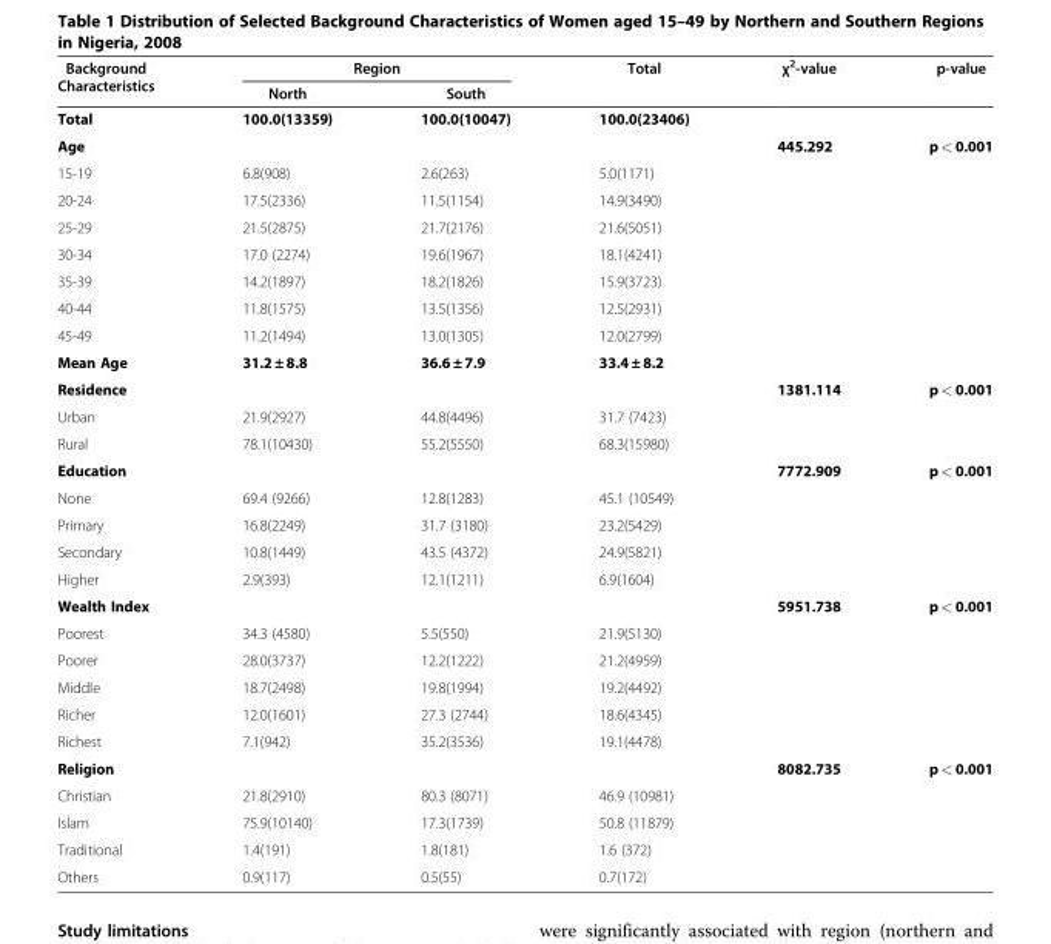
<table><thead><tr><td rowspan="2">Background Characteristics</td><td colspan="2">Region</td><td rowspan="2">Total</td><td rowspan="2">χ<sup>2</sup>-value</td><td rowspan="2">p-value</td></tr><tr><td>North</td><td>South</td></tr></thead><tbody><tr><td>Total</td><td>100.0(13359)</td><td>100.0(10047)</td><td>100.0(23406)</td><td></td><td></td></tr><tr><td>Age</td><td></td><td></td><td></td><td>445.292</td><td>p &lt; 0.001</td></tr><tr><td>15-19</td><td>6.8(908)</td><td>2.6(263)</td><td>5.0(1171)</td><td></td><td></td></tr><tr><td>20-24</td><td>17.5(2336)</td><td>11.5(1154)</td><td>14.9(3490)</td><td></td><td></td></tr><tr><td>25-29</td><td>21.5(2875)</td><td>21.7(2176)</td><td>21.6(5051)</td><td></td><td></td></tr><tr><td>30-34</td><td>17.0 (2274)</td><td>19.6(1967)</td><td>18.1(4241)</td><td></td><td></td></tr><tr><td>35-39</td><td>14.2(1897)</td><td>18.2(1826)</td><td>15.9(3723)</td><td></td><td></td></tr><tr><td>40-44</td><td>11.8(1575)</td><td>13.5(1356)</td><td>12.5(2931)</td><td></td><td></td></tr><tr><td>45-49</td><td>11.2(1494)</td><td>13.0(1305)</td><td>12.0(2799)</td><td></td><td></td></tr><tr><td>Mean Age</td><td>31.2 ± 8.8</td><td>36.6 ± 7.9</td><td>33.4 ± 8.2</td><td></td><td></td></tr><tr><td>Residence</td><td></td><td></td><td></td><td>1381.114</td><td>p &lt; 0.001</td></tr><tr><td>Urban</td><td>21.9(2927)</td><td>44.8(4496)</td><td>31.7 (7423)</td><td></td><td></td></tr><tr><td>Rural</td><td>78.1(10430)</td><td>55.2(5550)</td><td>68.3(15980)</td><td></td><td></td></tr><tr><td>Education</td><td></td><td></td><td></td><td>7772.909</td><td>p &lt; 0.001</td></tr><tr><td>None</td><td>69.4 (9266)</td><td>12.8(1283)</td><td>45.1 (10549)</td><td></td><td></td></tr><tr><td>Primary</td><td>16.8(2249)</td><td>31.7 (3180)</td><td>23.2(5429)</td><td></td><td></td></tr><tr><td>Secondary</td><td>10.8(1449)</td><td>43.5 (4372)</td><td>24.9(5821)</td><td></td><td></td></tr><tr><td>Higher</td><td>2.9(393)</td><td>12.1(1211)</td><td>6.9(1604)</td><td></td><td></td></tr><tr><td>Wealth Index</td><td></td><td></td><td></td><td>5951.738</td><td>p &lt; 0.001</td></tr><tr><td>Poorest</td><td>34.3 (4580)</td><td>5.5(550)</td><td>21.9(5130)</td><td></td><td></td></tr><tr><td>Poorer</td><td>28.0(3737)</td><td>12.2(1222)</td><td>21.2(4959)</td><td></td><td></td></tr><tr><td>Middle</td><td>18.7(2498)</td><td>19.8(1994)</td><td>19.2(4492)</td><td></td><td></td></tr><tr><td>Richer</td><td>12.0(1601)</td><td>27.3 (2744)</td><td>18.6(4345)</td><td></td><td></td></tr><tr><td>Richest</td><td>7.1(942)</td><td>35.2(3536)</td><td>19.1(4478)</td><td></td><td></td></tr><tr><td>Religion</td><td></td><td></td><td></td><td>8082.735</td><td>p &lt; 0.001</td></tr><tr><td>Christian</td><td>21.8(2910)</td><td>80.3 (8071)</td><td>46.9 (10981)</td><td></td><td></td></tr><tr><td>Islam</td><td>75.9(10140)</td><td>17.3(1739)</td><td>50.8 (11879)</td><td></td><td></td></tr><tr><td>Traditional</td><td>1.4(191)</td><td>1.8(181)</td><td>1.6 (372)</td><td></td><td></td></tr><tr><td>Others</td><td>0.9(117)</td><td>0.5(55)</td><td>0.7(172)</td><td></td><td></td></tr></tbody></table>